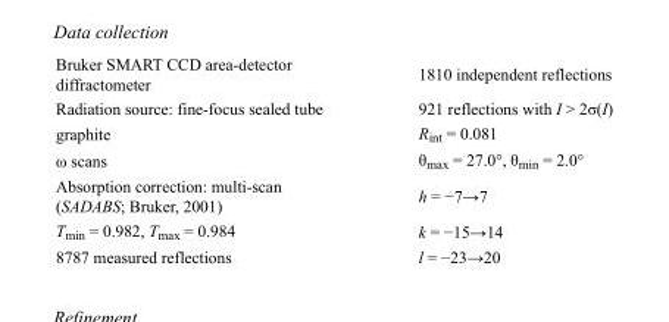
<table><tbody><tr><td>Bruker SMART CCD area-detector diffractometer</td><td>1810 independent reflections</td></tr><tr><td>Radiation source: fine-focus sealed tube</td><td>921 reflections with I &gt; 2σ(I)</td></tr><tr><td>graphite</td><td>R<sub>int</sub> = 0.081</td></tr><tr><td>ω scans</td><td>θ<sub>max</sub> = 27.0°, θ<sub>min</sub> = 2.0°</td></tr><tr><td>Absorption correction: multi-scan (SADABS; Bruker, 2001)</td><td>h = −7→7</td></tr><tr><td>T<sub>min</sub> = 0.982, T<sub>max</sub> = 0.984</td><td>k = −15→14</td></tr><tr><td>8787 measured reflections</td><td>l = −23→20</td></tr></tbody></table>